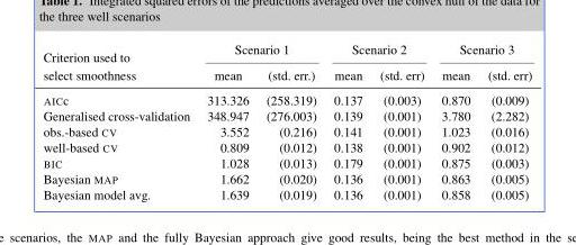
<table><thead><tr><td rowspan="2">Criterion used to select smoothness</td><td colspan="2">Scenario 1</td><td colspan="2">Scenario 2</td><td colspan="2">Scenario 3</td></tr><tr><td>mean</td><td>(std. err.)</td><td>mean</td><td>(std. err)</td><td>mean</td><td>(std. err)</td></tr></thead><tbody><tr><td>AICc</td><td>313.326</td><td>(258.319)</td><td>0.137</td><td>(0.003)</td><td>0.870</td><td>(0.009)</td></tr><tr><td>Generalised cross-validation</td><td>348.947</td><td>(276.003)</td><td>0.139</td><td>(0.001)</td><td>3.780</td><td>(2.282)</td></tr><tr><td>obs.-based CV</td><td>3.552</td><td>(0.216)</td><td>0.141</td><td>(0.001)</td><td>1.023</td><td>(0.016)</td></tr><tr><td>well-based CV</td><td>0.809</td><td>(0.012)</td><td>0.138</td><td>(0.001)</td><td>0.902</td><td>(0.012)</td></tr><tr><td>BIC</td><td>1.028</td><td>(0.013)</td><td>0.179</td><td>(0.001)</td><td>0.875</td><td>(0.003)</td></tr><tr><td>Bayesian MAP</td><td>1.662</td><td>(0.020)</td><td>0.136</td><td>(0.001)</td><td>0.863</td><td>(0.005)</td></tr><tr><td>Bayesian model avg.</td><td>1.639</td><td>(0.019)</td><td>0.136</td><td>(0.001)</td><td>0.858</td><td>(0.005)</td></tr></tbody></table>